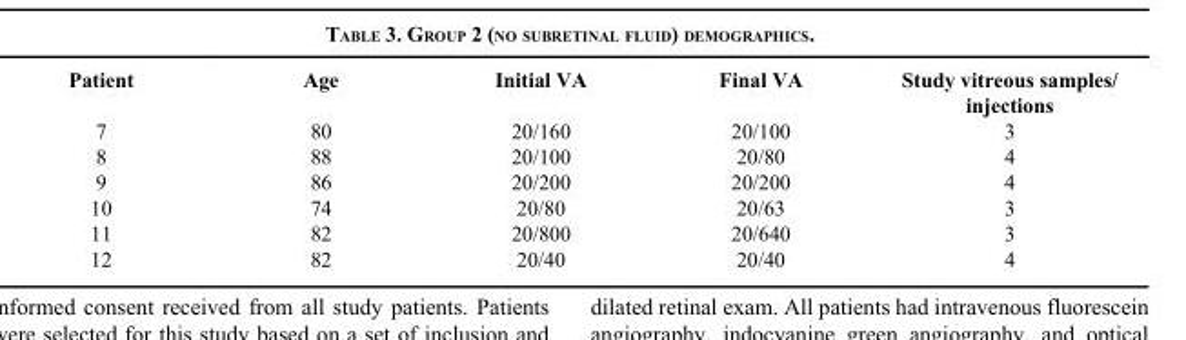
<table><thead><tr><td>Patient</td><td>Age</td><td>Initial VA</td><td>Final VA</td><td>Study vitreous samples/ injections</td></tr></thead><tbody><tr><td>7</td><td>80</td><td>20/160</td><td>20/100</td><td>3</td></tr><tr><td>8</td><td>88</td><td>20/100</td><td>20/80</td><td>4</td></tr><tr><td>9</td><td>86</td><td>20/200</td><td>20/200</td><td>4</td></tr><tr><td>10</td><td>74</td><td>20/80</td><td>20/63</td><td>3</td></tr><tr><td>11</td><td>82</td><td>20/800</td><td>20/640</td><td>3</td></tr><tr><td>12</td><td>82</td><td>20/40</td><td>20/40</td><td>4</td></tr></tbody></table>